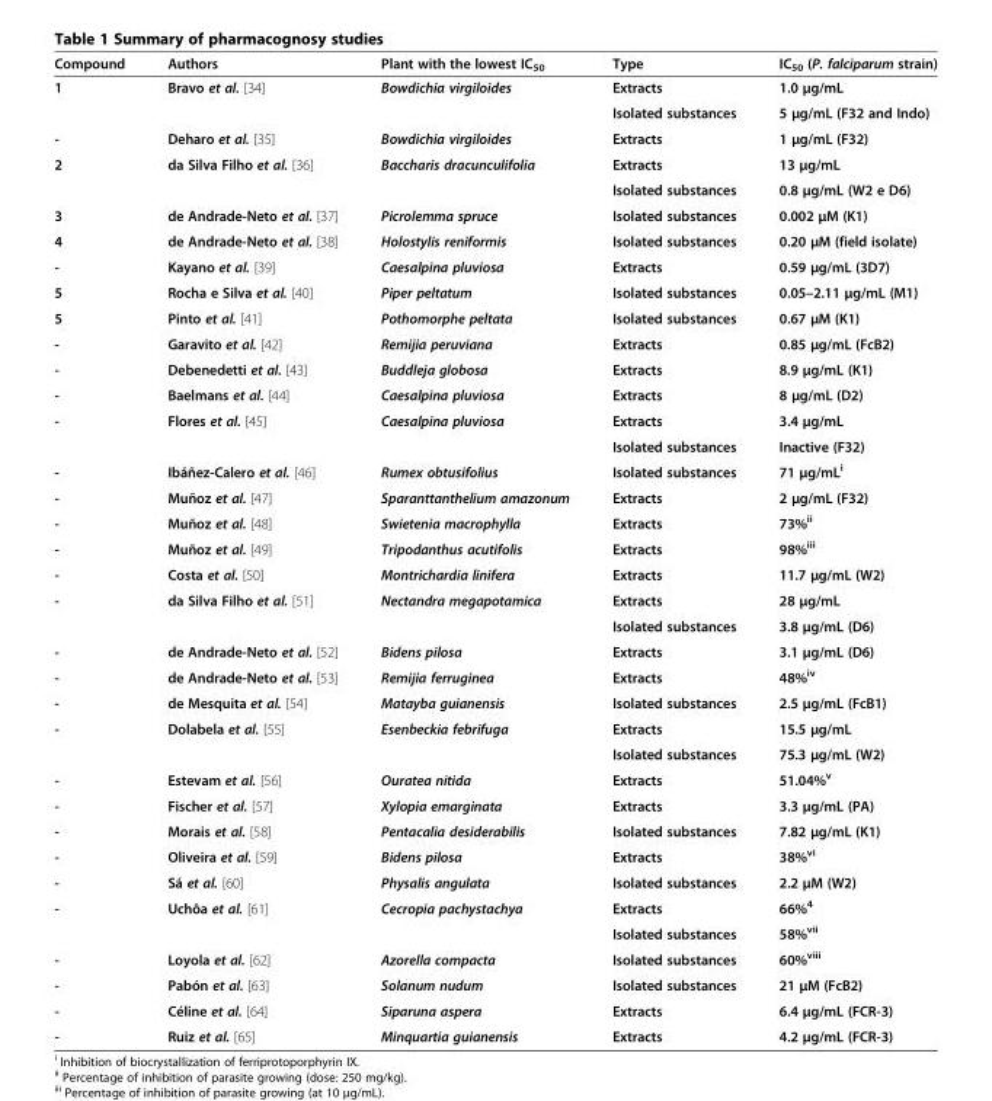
<table><thead><tr><td>Compound</td><td>Authors</td><td>Plant with the lowest IC<sub>50</sub></td><td>Type</td><td>IC<sub>50</sub> (P. falciparum strain)</td></tr></thead><tbody><tr><td rowspan="2">1</td><td rowspan="2">Bravo et al. [34]</td><td rowspan="2">Bowdichia virgiloides</td><td>Extracts</td><td>1.0 μg/mL</td></tr><tr><td>Isolated substances</td><td>5 μg/mL (F32 and Indo)</td></tr><tr><td>-</td><td>Deharo et al. [35]</td><td>Bowdichia virgiloides</td><td>Extracts</td><td>1 μg/mL (F32)</td></tr><tr><td rowspan="2">2</td><td rowspan="2">da Silva Filho et al. [36]</td><td rowspan="2">Baccharis dracunculifolia</td><td>Extracts</td><td>13 μg/mL</td></tr><tr><td>Isolated substances</td><td>0.8 μg/mL (W2 e D6)</td></tr><tr><td>3</td><td>de Andrade-Neto et al. [37]</td><td>Picrolemma spruce</td><td>Isolated substances</td><td>0.002 μM (K1)</td></tr><tr><td>4</td><td>de Andrade-Neto et al. [38]</td><td>Holostylis reniformis</td><td>Isolated substances</td><td>0.20 μM (field isolate)</td></tr><tr><td>-</td><td>Kayano et al. [39]</td><td>Caesalpina pluviosa</td><td>Extracts</td><td>0.59 μg/mL (3D7)</td></tr><tr><td>5</td><td>Rocha e Silva et al. [40]</td><td>Piper peltatum</td><td>Isolated substances</td><td>0.05–2.11 μg/mL (M1)</td></tr><tr><td>5</td><td>Pinto et al. [41]</td><td>Pothomorphe peltata</td><td>Isolated substances</td><td>0.67 μM (K1)</td></tr><tr><td>-</td><td>Garavito et al. [42]</td><td>Remijia peruviana</td><td>Extracts</td><td>0.85 μg/mL (FcB2)</td></tr><tr><td>-</td><td>Debenedetti et al. [43]</td><td>Buddleja globosa</td><td>Extracts</td><td>8.9 μg/mL (K1)</td></tr><tr><td>-</td><td>Baelmans et al. [44]</td><td>Caesalpina pluviosa</td><td>Extracts</td><td>8 μg/mL (D2)</td></tr><tr><td rowspan="2">-</td><td rowspan="2">Flores et al. [45]</td><td rowspan="2">Caesalpina pluviosa</td><td>Extracts</td><td>3.4 μg/mL</td></tr><tr><td>Isolated substances</td><td>Inactive (F32)</td></tr><tr><td>-</td><td>Ibáñez-Calero et al. [46]</td><td>Rumex obtusifolius</td><td>Isolated substances</td><td>71 μg/mL<sup>i</sup></td></tr><tr><td>-</td><td>Muñoz et al. [47]</td><td>Sparanttanthelium amazonum</td><td>Extracts</td><td>2 μg/mL (F32)</td></tr><tr><td>-</td><td>Muñoz et al. [48]</td><td>Swietenia macrophylla</td><td>Extracts</td><td>73%<sup>ii</sup></td></tr><tr><td>-</td><td>Muñoz et al. [49]</td><td>Tripodanthus acutifolis</td><td>Extracts</td><td>98%<sup>iii</sup></td></tr><tr><td>-</td><td>Costa et al. [50]</td><td>Montrichardia linifera</td><td>Extracts</td><td>11.7 μg/mL (W2)</td></tr><tr><td rowspan="2">-</td><td rowspan="2">da Silva Filho et al. [51]</td><td rowspan="2">Nectandra megapotamica</td><td>Extracts</td><td>28 μg/mL</td></tr><tr><td>Isolated substances</td><td>3.8 μg/mL (D6)</td></tr><tr><td>-</td><td>de Andrade-Neto et al. [52]</td><td>Bidens pilosa</td><td>Extracts</td><td>3.1 μg/mL (D6)</td></tr><tr><td>-</td><td>de Andrade-Neto et al. [53]</td><td>Remijia ferruginea</td><td>Extracts</td><td>48%<sup>iv</sup></td></tr><tr><td>-</td><td>de Mesquita et al. [54]</td><td>Matayba guianensis</td><td>Isolated substances</td><td>2.5 μg/mL (FcB1)</td></tr><tr><td rowspan="2">-</td><td rowspan="2">Dolabela et al. [55]</td><td rowspan="2">Esenbeckia febrifuga</td><td>Extracts</td><td>15.5 μg/mL</td></tr><tr><td>Isolated substances</td><td>75.3 μg/mL (W2)</td></tr><tr><td>-</td><td>Estevam et al. [56]</td><td>Ouratea nitida</td><td>Extracts</td><td>51.04%<sup>v</sup></td></tr><tr><td>-</td><td>Fischer et al. [57]</td><td>Xylopia emarginata</td><td>Extracts</td><td>3.3 μg/mL (PA)</td></tr><tr><td>-</td><td>Morais et al. [58]</td><td>Pentacalia desiderabilis</td><td>Isolated substances</td><td>7.82 μg/mL (K1)</td></tr><tr><td>-</td><td>Oliveira et al. [59]</td><td>Bidens pilosa</td><td>Extracts</td><td>38%<sup>vi</sup></td></tr><tr><td>-</td><td>Sá et al. [60]</td><td>Physalis angulata</td><td>Isolated substances</td><td>2.2 μM (W2)</td></tr><tr><td rowspan="2">-</td><td rowspan="2">Uchôa et al. [61]</td><td rowspan="2">Cecropia pachystachya</td><td>Extracts</td><td>66%<sup>4</sup></td></tr><tr><td>Isolated substances</td><td>58%<sup>vii</sup></td></tr><tr><td>-</td><td>Loyola et al. [62]</td><td>Azorella compacta</td><td>Isolated substances</td><td>60%<sup>viii</sup></td></tr><tr><td>-</td><td>Pabón et al. [63]</td><td>Solanum nudum</td><td>Isolated substances</td><td>21 μM (FcB2)</td></tr><tr><td>-</td><td>Céline et al. [64]</td><td>Siparuna aspera</td><td>Extracts</td><td>6.4 μg/mL (FCR-3)</td></tr><tr><td>-</td><td>Ruiz et al. [65]</td><td>Minquartia guianensis</td><td>Extracts</td><td>4.2 μg/mL (FCR-3)</td></tr></tbody></table>